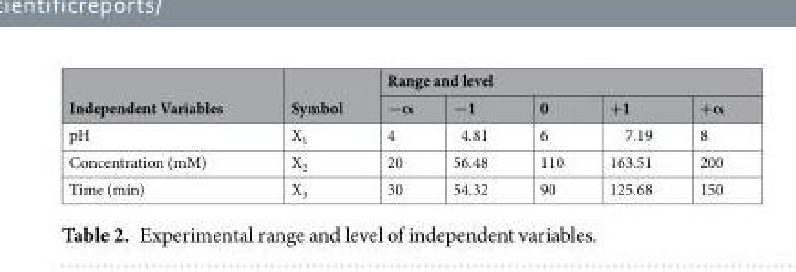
<table><thead><tr><td rowspan="2">Independent Variables</td><td rowspan="2">Symbol</td><td colspan="5">Range and level</td></tr><tr><td>−α</td><td>−1</td><td>0</td><td>+1</td><td>+α</td></tr></thead><tbody><tr><td>pH</td><td>X<sub>1</sub></td><td>4</td><td>4.81</td><td>6</td><td>7.19</td><td>8</td></tr><tr><td>Concentration (mM)</td><td>X<sub>2</sub></td><td>20</td><td>56.48</td><td>110</td><td>163.51</td><td>200</td></tr><tr><td>Time (min)</td><td>X<sub>3</sub></td><td>30</td><td>54.32</td><td>90</td><td>125.68</td><td>150</td></tr></tbody></table>